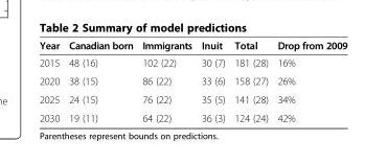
<table><thead><tr><td>Year</td><td>Canadian born</td><td>Immigrants</td><td>Inuit</td><td>Total</td><td>Drop from 2009</td></tr></thead><tbody><tr><td>2015</td><td>48 (16)</td><td>102 (22)</td><td>30 (7)</td><td>181 (28)</td><td>16%</td></tr><tr><td>2020</td><td>38 (15)</td><td>86 (22)</td><td>33 (6)</td><td>158 (27)</td><td>26%</td></tr><tr><td>2025</td><td>24 (15)</td><td>76 (22)</td><td>35 (5)</td><td>141 (28)</td><td>34%</td></tr><tr><td>2030</td><td>19 (11)</td><td>64 (22)</td><td>36 (3)</td><td>124 (24)</td><td>42%</td></tr></tbody></table>